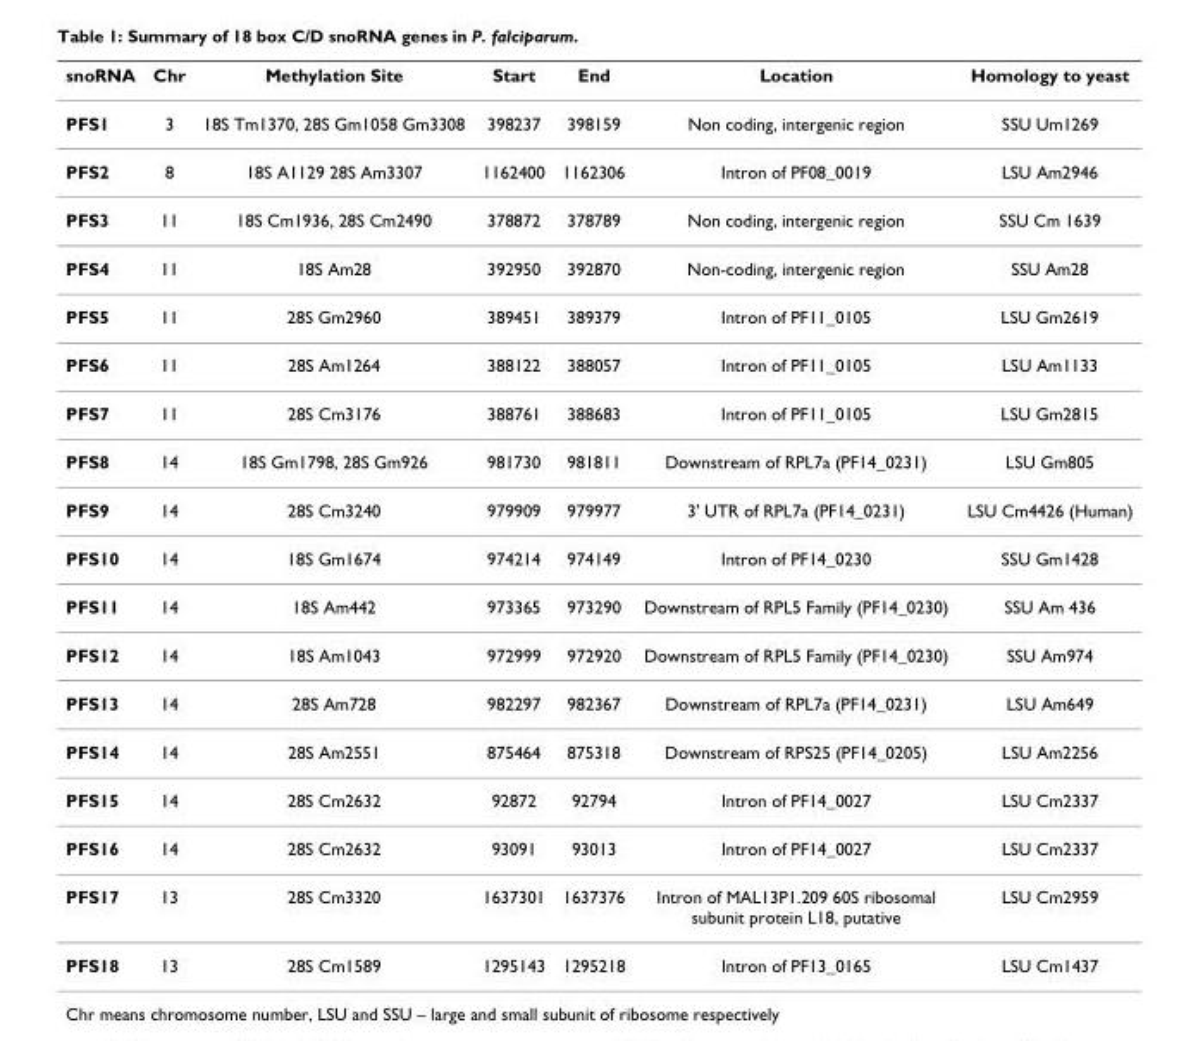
<table><thead><tr><td>snoRNA</td><td>Chr</td><td>Methylation Site</td><td>Start</td><td>End</td><td>Location</td><td>Homology to yeast</td></tr></thead><tbody><tr><td>PFS1</td><td>3</td><td>18S Tm1370, 28S Gm1058 Gm3308</td><td>398237</td><td>398159</td><td>Non coding, intergenic region</td><td>SSU Um1269</td></tr><tr><td>PFS2</td><td>8</td><td>18S A1129 28S Am3307</td><td>1162400</td><td>1162306</td><td>Intron of PF08_0019</td><td>LSU Am2946</td></tr><tr><td>PFS3</td><td>11</td><td>18S Cm1936, 28S Cm2490</td><td>378872</td><td>378789</td><td>Non coding, intergenic region</td><td>SSU Cm 1639</td></tr><tr><td>PFS4</td><td>11</td><td>18S Am28</td><td>392950</td><td>392870</td><td>Non-coding, intergenic region</td><td>SSU Am28</td></tr><tr><td>PFS5</td><td>11</td><td>28S Gm2960</td><td>389451</td><td>389379</td><td>Intron of PF11_0105</td><td>LSU Gm2619</td></tr><tr><td>PFS6</td><td>11</td><td>28S Am1264</td><td>388122</td><td>388057</td><td>Intron of PF11_0105</td><td>LSU Am1133</td></tr><tr><td>PFS7</td><td>11</td><td>28S Cm3176</td><td>388761</td><td>388683</td><td>Intron of PF11_0105</td><td>LSU Gm2815</td></tr><tr><td>PFS8</td><td>14</td><td>18S Gm1798, 28S Gm926</td><td>981730</td><td>981811</td><td>Downstream of RPL7a (PF14_0231)</td><td>LSU Gm805</td></tr><tr><td>PFS9</td><td>14</td><td>28S Cm3240</td><td>979909</td><td>979977</td><td>3&#x27; UTR of RPL7a (PF14_0231)</td><td>LSU Cm4426 (Human)</td></tr><tr><td>PFS10</td><td>14</td><td>18S Gm1674</td><td>974214</td><td>974149</td><td>Intron of PF14_0230</td><td>SSU Gm1428</td></tr><tr><td>PFS11</td><td>14</td><td>18S Am442</td><td>973365</td><td>973290</td><td>Downstream of RPL5 Family (PF14_0230)</td><td>SSU Am 436</td></tr><tr><td>PFS12</td><td>14</td><td>18S Am1043</td><td>972999</td><td>972920</td><td>Downstream of RPL5 Family (PF14_0230)</td><td>SSU Am974</td></tr><tr><td>PFS13</td><td>14</td><td>28S Am728</td><td>982297</td><td>982367</td><td>Downstream of RPL7a (PF14_0231)</td><td>LSU Am649</td></tr><tr><td>PFS14</td><td>14</td><td>28S Am2551</td><td>875464</td><td>875318</td><td>Downstream of RPS25 (PF14_0205)</td><td>LSU Am2256</td></tr><tr><td>PFS15</td><td>14</td><td>28S Cm2632</td><td>92872</td><td>92794</td><td>Intron of PF14_0027</td><td>LSU Cm2337</td></tr><tr><td>PFS16</td><td>14</td><td>28S Cm2632</td><td>93091</td><td>93013</td><td>Intron of PF14_0027</td><td>LSU Cm2337</td></tr><tr><td>PFS17</td><td>13</td><td>28S Cm3320</td><td>1637301</td><td>1637376</td><td>Intron of MAL13P1.209 60S ribosomal subunit protein L18, putative</td><td>LSU Cm2959</td></tr><tr><td>PFS18</td><td>13</td><td>28S Cm1589</td><td>1295143</td><td>1295218</td><td>Intron of PF13_0165</td><td>LSU Cm1437</td></tr></tbody></table>